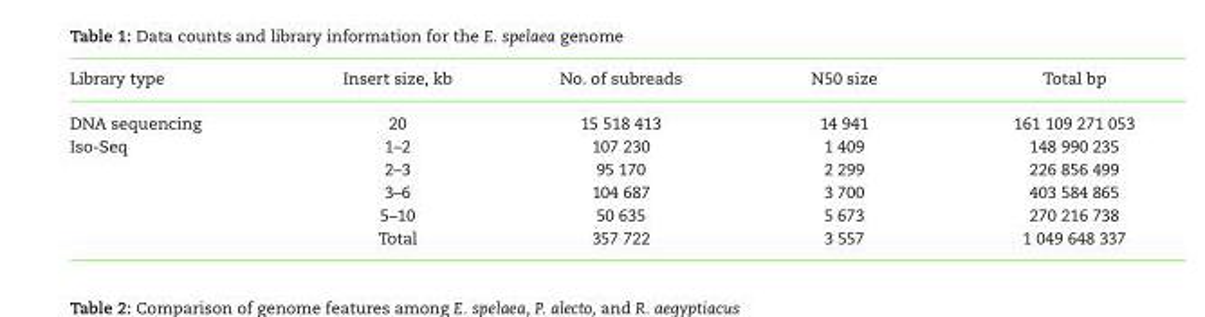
<table><thead><tr><td>Library type</td><td>Insert size, kb</td><td>No. of subreads</td><td>N50 size</td><td>Total bp</td></tr></thead><tbody><tr><td>DNA sequencing</td><td>20</td><td>15 518 413</td><td>14 941</td><td>161 109 271 053</td></tr><tr><td rowspan="5">Iso-Seq</td><td>1–2</td><td>107 230</td><td>1 409</td><td>148 990 235</td></tr><tr><td>2–3</td><td>95 170</td><td>2 299</td><td>226 856 499</td></tr><tr><td>3–6</td><td>104 687</td><td>3 700</td><td>403 584 865</td></tr><tr><td>5–10</td><td>50 635</td><td>5 673</td><td>270 216 738</td></tr><tr><td>Total</td><td>357 722</td><td>3 557</td><td>1 049 648 337</td></tr></tbody></table>